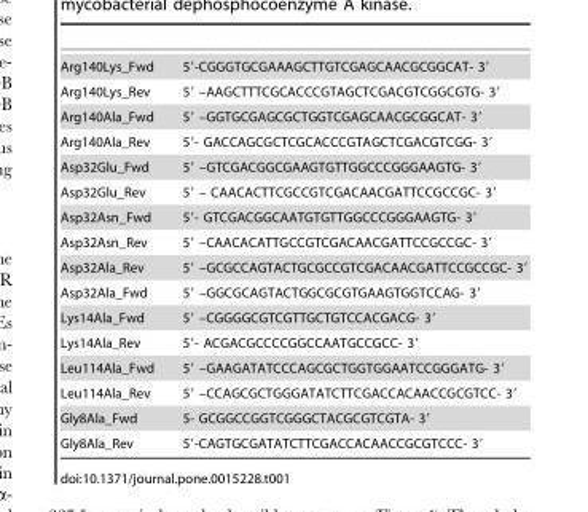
<table><tbody><tr><td>Arg140Lys_Fwd</td><td>5′-CGGGTGCGAAAGCTTGTCGAGCAACGCGGCAT- 3′</td></tr><tr><td>Arg140Lys_Rev</td><td>5′ –AAGCTTTCGCACCCGTAGCTCGACGTCGGCGTG- 3′</td></tr><tr><td>Arg140Ala_Fwd</td><td>5′ –GGTGCGAGCGCTGGTCGAGCAACGCGGCAT- 3′</td></tr><tr><td>Arg140Ala_Rev</td><td>5′- GACCAGCGCTCGCACCCGTAGCTCGACGTCGG- 3′</td></tr><tr><td>Asp32Glu_Fwd</td><td>5′ –GTCGACGGCGAAGTGTTGGCCCGGGAAGTG- 3′</td></tr><tr><td>Asp32Glu_Rev</td><td>5′ – CAACACTTCGCCGTCGACAACGATTCCGCCGC- 3′</td></tr><tr><td>Asp32Asn_Fwd</td><td>5′- GTCGACGGCAATGTGTTGGCCCGGGAAGTG- 3′</td></tr><tr><td>Asp32Asn_Rev</td><td>5′ –CAACACATTGCCGTCGACAACGATTCCGCCGC- 3′</td></tr><tr><td>Asp32Ala_Rev</td><td>5′ –GCGCCAGTACTGCGCCGTCGACAACGATTCCGCCGC- 3′</td></tr><tr><td>Asp32Ala_Fwd</td><td>5′ –GGCGCAGTACTGGCGCGTGAAGTGGTCCAG- 3′</td></tr><tr><td>Lys14Ala_Fwd</td><td>5′ –CGGGGCGTCGTTGCTGTCCACGACG- 3′</td></tr><tr><td>Lys14Ala_Rev</td><td>5′- ACGACGCCCCGGCCAATGCCGCC- 3′</td></tr><tr><td>Leu114Ala_Fwd</td><td>5′ –GAAGATATCCCAGCGCTGGTGGAATCCGGGATG- 3′</td></tr><tr><td>Leu114Ala_Rev</td><td>5′ –CCAGCGCTGGGATATCTTCGACCACAACCGCGTCC- 3′</td></tr><tr><td>Gly8Ala_Fwd</td><td>5- GCGGCCGGTCGGGCTACGCGTCGTA- 3′</td></tr><tr><td>Gly8Ala_Rev</td><td>5′-CAGTGCGATATCTTCGACCACAACCGCGTCCC- 3′</td></tr></tbody></table>